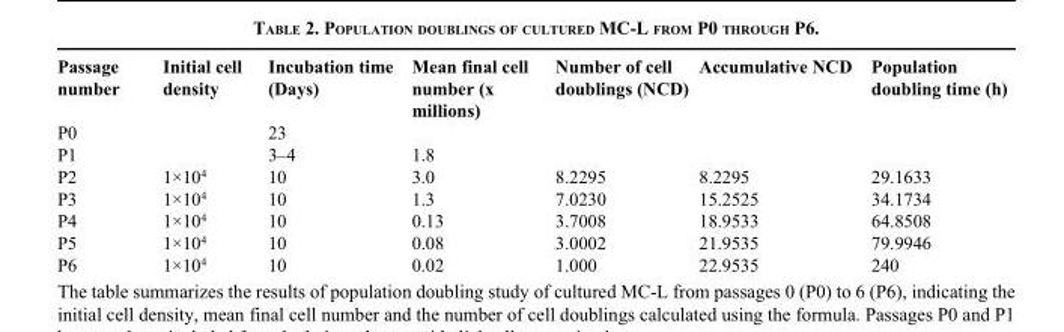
<table><thead><tr><td>Passage number</td><td>Initial cell density</td><td>Incubation time (Days)</td><td>Mean final cell number (x millions)</td><td>Number of cell doublings (NCD)</td><td>Accumulative NCD</td><td>Population doubling time (h)</td></tr></thead><tbody><tr><td>P0</td><td></td><td>23</td><td></td><td></td><td></td><td></td></tr><tr><td>P1</td><td></td><td>3–4</td><td>1.8</td><td></td><td></td><td></td></tr><tr><td>P2</td><td>1×10<sup>4</sup></td><td>10</td><td>3.0</td><td>8.2295</td><td>8.2295</td><td>29.1633</td></tr><tr><td>P3</td><td>1×10<sup>4</sup></td><td>10</td><td>1.3</td><td>7.0230</td><td>15.2525</td><td>34.1734</td></tr><tr><td>P4</td><td>1×10<sup>4</sup></td><td>10</td><td>0.13</td><td>3.7008</td><td>18.9533</td><td>64.8508</td></tr><tr><td>P5</td><td>1×10<sup>4</sup></td><td>10</td><td>0.08</td><td>3.0002</td><td>21.9535</td><td>79.9946</td></tr><tr><td>P6</td><td>1×10<sup>4</sup></td><td>10</td><td>0.02</td><td>1.000</td><td>22.9535</td><td>240</td></tr></tbody></table>